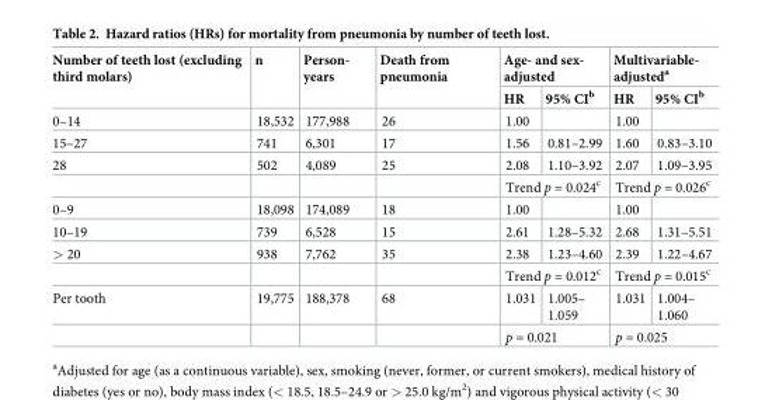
<table><thead><tr><td rowspan="2">Number of teeth lost (excluding third molars)</td><td rowspan="2">n</td><td rowspan="2">Person- years</td><td rowspan="2">Death from pneumonia</td><td colspan="2">Age- and sex- adjusted</td><td colspan="2">Multivariable- adjusted<sup>a</sup></td></tr><tr><td>HR</td><td>95% CI<sup>b</sup></td><td>HR</td><td>95% CI<sup>b</sup></td></tr></thead><tbody><tr><td>0–14</td><td>18,532</td><td>177,988</td><td>26</td><td>1.00</td><td></td><td>1.00</td><td></td></tr><tr><td>15–27</td><td>741</td><td>6,301</td><td>17</td><td>1.56</td><td>0.81–2.99</td><td>1.60</td><td>0.83–3.10</td></tr><tr><td rowspan="2">28</td><td>502</td><td>4,089</td><td>25</td><td>2.08</td><td>1.10–3.92</td><td>2.07</td><td>1.09–3.95</td></tr><tr><td></td><td></td><td></td><td colspan="2">Trend p = 0.024<sup>c</sup></td><td colspan="2">Trend p = 0.026<sup>c</sup></td></tr><tr><td>0–9</td><td>18,098</td><td>174,089</td><td>18</td><td>1.00</td><td></td><td>1.00</td><td></td></tr><tr><td>10–19</td><td>739</td><td>6,528</td><td>15</td><td>2.61</td><td>1.28–5.32</td><td>2.68</td><td>1.31–5.51</td></tr><tr><td rowspan="2">&gt; 20</td><td>938</td><td>7,762</td><td>35</td><td>2.38</td><td>1.23–4.60</td><td>2.39</td><td>1.22–4.67</td></tr><tr><td></td><td></td><td></td><td colspan="2">Trend p = 0.012<sup>c</sup></td><td colspan="2">Trend p = 0.015<sup>c</sup></td></tr><tr><td rowspan="2">Per tooth</td><td>19,775</td><td>188,378</td><td>68</td><td>1.031</td><td>1.005– 1.059</td><td>1.031</td><td>1.004– 1.060</td></tr><tr><td></td><td></td><td></td><td colspan="2">p = 0.021</td><td colspan="2">p = 0.025</td></tr></tbody></table>